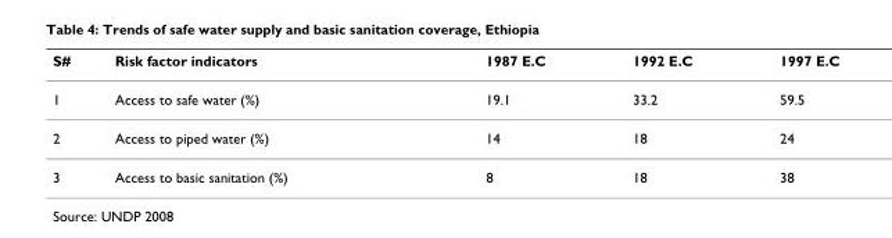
<table><thead><tr><td>S#</td><td>Risk factor indicators</td><td>1987 E.C</td><td>1992 E.C</td><td>1997 E.C</td></tr></thead><tbody><tr><td>1</td><td>Access to safe water (%)</td><td>19.1</td><td>33.2</td><td>59.5</td></tr><tr><td>2</td><td>Access to piped water (%)</td><td>14</td><td>18</td><td>24</td></tr><tr><td>3</td><td>Access to basic sanitation (%)</td><td>8</td><td>18</td><td>38</td></tr></tbody></table>